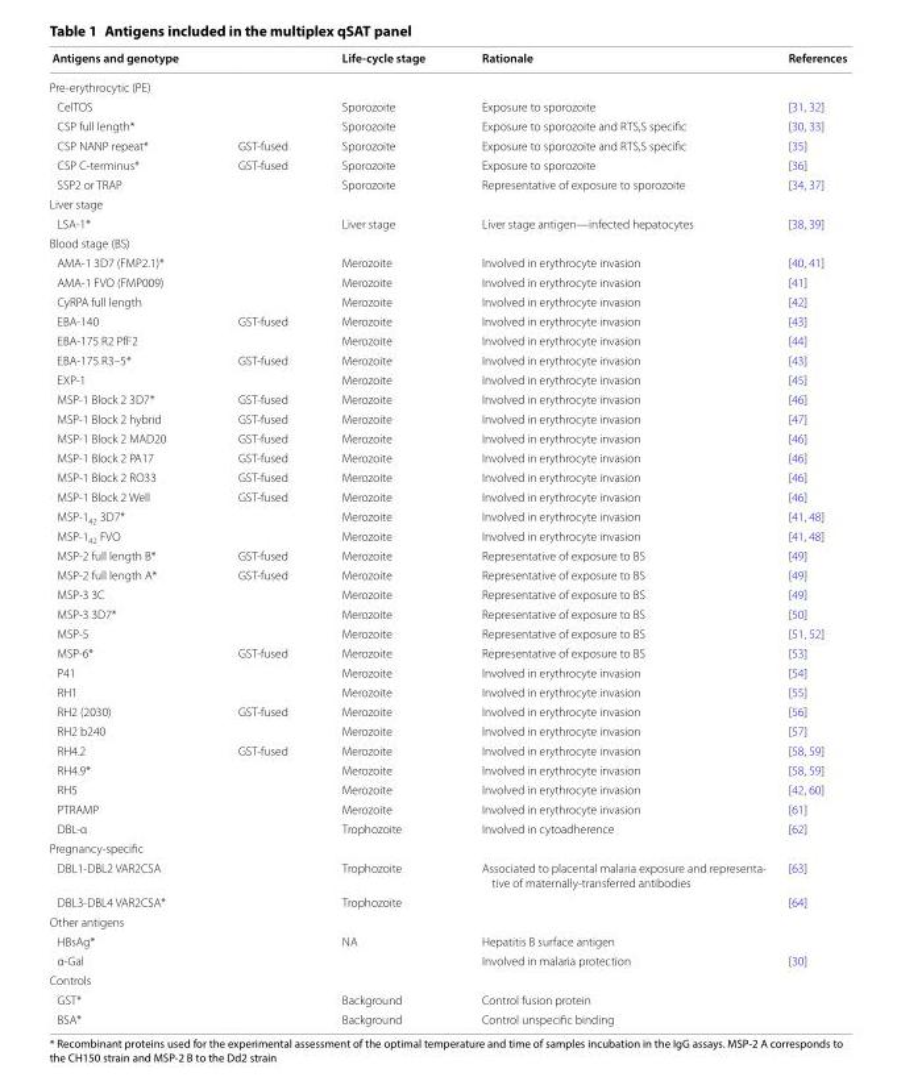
<table><thead><tr><td>Antigens and genotype</td><td></td><td>Life-cycle stage</td><td>Rationale</td><td>References</td></tr></thead><tbody><tr><td colspan="5">Pre-erythrocytic (PE)</td></tr><tr><td>CelTOS</td><td></td><td>Sporozoite</td><td>Exposure to sporozoite</td><td>[31, 32]</td></tr><tr><td>CSP full length*</td><td></td><td>Sporozoite</td><td>Exposure to sporozoite and RTS,S specific</td><td>[30, 33]</td></tr><tr><td>CSP NANP repeat*</td><td>GST-fused</td><td>Sporozoite</td><td>Exposure to sporozoite and RTS,S specific</td><td>[35]</td></tr><tr><td>CSP C-terminus*</td><td>GST-fused</td><td>Sporozoite</td><td>Exposure to sporozoite</td><td>[36]</td></tr><tr><td>SSP2 or TRAP</td><td></td><td>Sporozoite</td><td>Representative of exposure to sporozoite</td><td>[34, 37]</td></tr><tr><td colspan="5">Liver stage</td></tr><tr><td>LSA-1*</td><td></td><td>Liver stage</td><td>Liver stage antigen—infected hepatocytes</td><td>[38, 39]</td></tr><tr><td colspan="5">Blood stage (BS)</td></tr><tr><td>AMA-1 3D7 (FMP2.1)*</td><td></td><td>Merozoite</td><td>Involved in erythrocyte invasion</td><td>[40, 41]</td></tr><tr><td>AMA-1 FVO (FMP009)</td><td></td><td>Merozoite</td><td>Involved in erythrocyte invasion</td><td>[41]</td></tr><tr><td>CyRPA full length</td><td></td><td>Merozoite</td><td>Involved in erythrocyte invasion</td><td>[42]</td></tr><tr><td>EBA-140</td><td>GST-fused</td><td>Merozoite</td><td>Involved in erythrocyte invasion</td><td>[43]</td></tr><tr><td>EBA-175 R2 PfF2</td><td></td><td>Merozoite</td><td>Involved in erythrocyte invasion</td><td>[44]</td></tr><tr><td>EBA-175 R3–5*</td><td>GST-fused</td><td>Merozoite</td><td>Involved in erythrocyte invasion</td><td>[43]</td></tr><tr><td>EXP-1</td><td></td><td>Merozoite</td><td>Involved in erythrocyte invasion</td><td>[45]</td></tr><tr><td>MSP-1 Block 2 3D7*</td><td>GST-fused</td><td>Merozoite</td><td>Involved in erythrocyte invasion</td><td>[46]</td></tr><tr><td>MSP-1 Block 2 hybrid</td><td>GST-fused</td><td>Merozoite</td><td>Involved in erythrocyte invasion</td><td>[47]</td></tr><tr><td>MSP-1 Block 2 MAD20</td><td>GST-fused</td><td>Merozoite</td><td>Involved in erythrocyte invasion</td><td>[46]</td></tr><tr><td>MSP-1 Block 2 PA17</td><td>GST-fused</td><td>Merozoite</td><td>Involved in erythrocyte invasion</td><td>[46]</td></tr><tr><td>MSP-1 Block 2 RO33</td><td>GST-fused</td><td>Merozoite</td><td>Involved in erythrocyte invasion</td><td>[46]</td></tr><tr><td>MSP-1 Block 2 Well</td><td>GST-fused</td><td>Merozoite</td><td>Involved in erythrocyte invasion</td><td>[46]</td></tr><tr><td>MSP-1<sub>42</sub> 3D7*</td><td></td><td>Merozoite</td><td>Involved in erythrocyte invasion</td><td>[41, 48]</td></tr><tr><td>MSP-1<sub>42</sub> FVO</td><td></td><td>Merozoite</td><td>Involved in erythrocyte invasion</td><td>[41, 48]</td></tr><tr><td>MSP-2 full length B*</td><td>GST-fused</td><td>Merozoite</td><td>Representative of exposure to BS</td><td>[49]</td></tr><tr><td>MSP-2 full length A*</td><td>GST-fused</td><td>Merozoite</td><td>Representative of exposure to BS</td><td>[49]</td></tr><tr><td>MSP-3 3C</td><td></td><td>Merozoite</td><td>Representative of exposure to BS</td><td>[49]</td></tr><tr><td>MSP-3 3D7*</td><td></td><td>Merozoite</td><td>Representative of exposure to BS</td><td>[50]</td></tr><tr><td>MSP-5</td><td></td><td>Merozoite</td><td>Representative of exposure to BS</td><td>[51, 52]</td></tr><tr><td>MSP-6*</td><td>GST-fused</td><td>Merozoite</td><td>Representative of exposure to BS</td><td>[53]</td></tr><tr><td>P41</td><td></td><td>Merozoite</td><td>Involved in erythrocyte invasion</td><td>[54]</td></tr><tr><td>RH1</td><td></td><td>Merozoite</td><td>Involved in erythrocyte invasion</td><td>[55]</td></tr><tr><td>RH2 (2030)</td><td>GST-fused</td><td>Merozoite</td><td>Involved in erythrocyte invasion</td><td>[56]</td></tr><tr><td>RH2 b240</td><td></td><td>Merozoite</td><td>Involved in erythrocyte invasion</td><td>[57]</td></tr><tr><td>RH4.2</td><td>GST-fused</td><td>Merozoite</td><td>Involved in erythrocyte invasion</td><td>[58, 59]</td></tr><tr><td>RH4.9*</td><td></td><td>Merozoite</td><td>Involved in erythrocyte invasion</td><td>[58, 59]</td></tr><tr><td>RH5</td><td></td><td>Merozoite</td><td>Involved in erythrocyte invasion</td><td>[42, 60]</td></tr><tr><td>PTRAMP</td><td></td><td>Merozoite</td><td>Involved in erythrocyte invasion</td><td>[61]</td></tr><tr><td>DBL-α</td><td></td><td>Trophozoite</td><td>Involved in cytoadherence</td><td>[62]</td></tr><tr><td colspan="5">Pregnancy-specific</td></tr><tr><td>DBL1-DBL2 VAR2CSA</td><td></td><td>Trophozoite</td><td>Associated to placental malaria exposure and representa- tive of maternally-transferred antibodies</td><td>[63]</td></tr><tr><td>DBL3-DBL4 VAR2CSA*</td><td></td><td>Trophozoite</td><td></td><td>[64]</td></tr><tr><td colspan="5">Other antigens</td></tr><tr><td>HBsAg*</td><td></td><td>NA</td><td>Hepatitis B surface antigen</td><td></td></tr><tr><td>α-Gal</td><td></td><td></td><td>Involved in malaria protection</td><td>[30]</td></tr><tr><td colspan="5">Controls</td></tr><tr><td>GST*</td><td></td><td>Background</td><td>Control fusion protein</td><td></td></tr><tr><td>BSA*</td><td></td><td>Background</td><td>Control unspecific binding</td><td></td></tr></tbody></table>